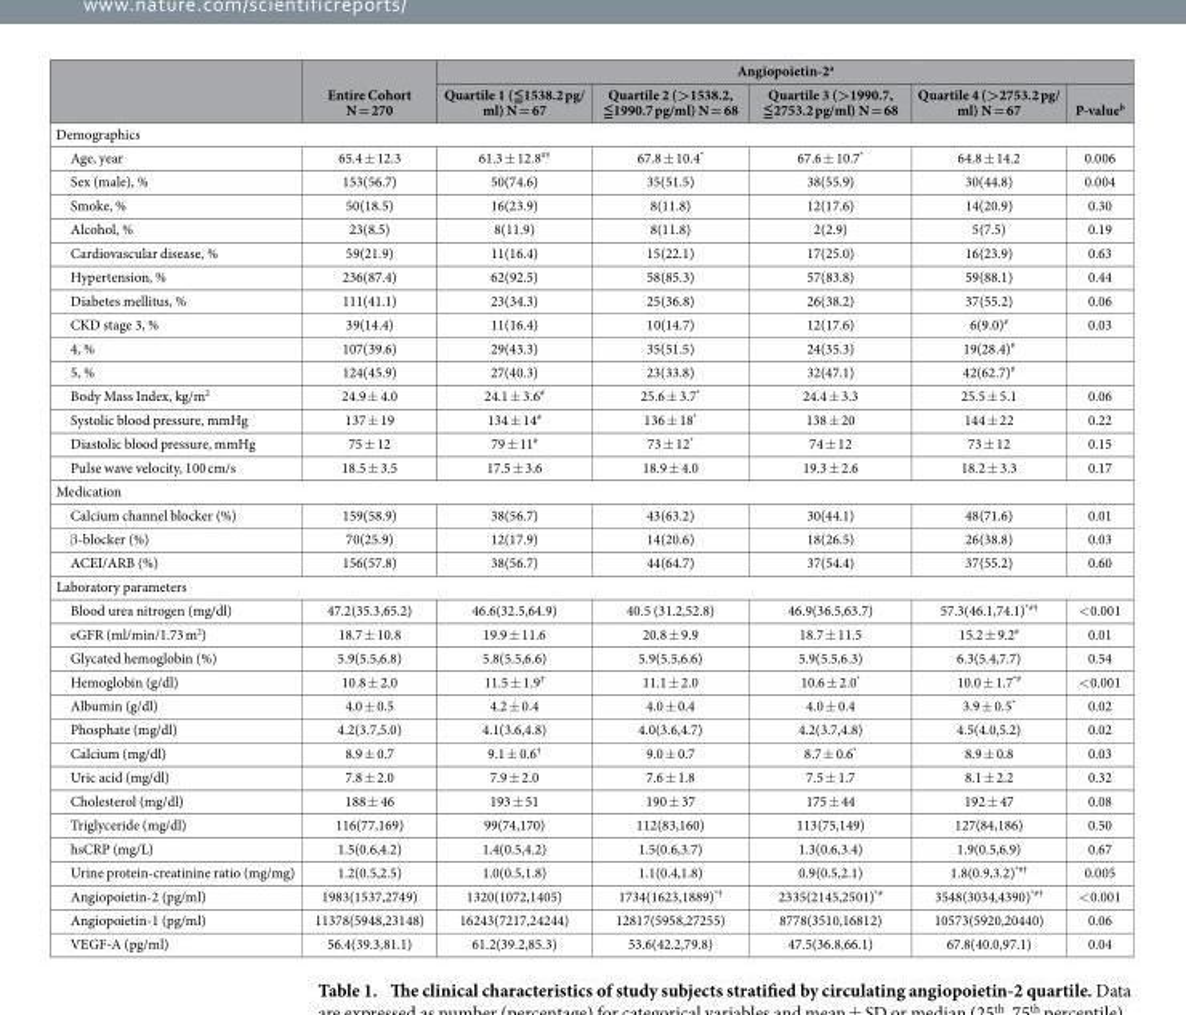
<table><thead><tr><td rowspan="2"></td><td rowspan="2">Entire Cohort N = 270</td><td colspan="5">Angiopoietin-2<sup>a</sup></td></tr><tr><td>Quartile 1 (≦1538.2 pg/ ml) N = 67</td><td>Quartile 2 (&gt;1538.2, ≦1990.7 pg/ml) N = 68</td><td>Quartile 3 (&gt;1990.7, ≦2753.2 pg/ml) N = 68</td><td>Quartile 4 (&gt;2753.2 pg/ ml) N = 67</td><td>P-value<sup>b</sup></td></tr></thead><tbody><tr><td colspan="7">Demographics</td></tr><tr><td>Age, year</td><td>65.4 ± 12.3</td><td>61.3 ± 12.8<sup>#†</sup></td><td>67.8 ± 10.4*</td><td>67.6 ± 10.7*</td><td>64.8 ± 14.2</td><td>0.006</td></tr><tr><td>Sex (male), %</td><td>153(56.7)</td><td>50(74.6)</td><td>35(51.5)</td><td>38(55.9)</td><td>30(44.8)</td><td>0.004</td></tr><tr><td>Smoke, %</td><td>50(18.5)</td><td>16(23.9)</td><td>8(11.8)</td><td>12(17.6)</td><td>14(20.9)</td><td>0.30</td></tr><tr><td>Alcohol, %</td><td>23(8.5)</td><td>8(11.9)</td><td>8(11.8)</td><td>2(2.9)</td><td>5(7.5)</td><td>0.19</td></tr><tr><td>Cardiovascular disease, %</td><td>59(21.9)</td><td>11(16.4)</td><td>15(22.1)</td><td>17(25.0)</td><td>16(23.9)</td><td>0.63</td></tr><tr><td>Hypertension, %</td><td>236(87.4)</td><td>62(92.5)</td><td>58(85.3)</td><td>57(83.8)</td><td>59(88.1)</td><td>0.44</td></tr><tr><td>Diabetes mellitus, %</td><td>111(41.1)</td><td>23(34.3)</td><td>25(36.8)</td><td>26(38.2)</td><td>37(55.2)</td><td>0.06</td></tr><tr><td>CKD stage 3, %</td><td>39(14.4)</td><td>11(16.4)</td><td>10(14.7)</td><td>12(17.6)</td><td>6(9.0)<sup>#</sup></td><td>0.03</td></tr><tr><td>4, %</td><td>107(39.6)</td><td>29(43.3)</td><td>35(51.5)</td><td>24(35.3)</td><td>19(28.4)<sup>#</sup></td><td></td></tr><tr><td>5, %</td><td>124(45.9)</td><td>27(40.3)</td><td>23(33.8)</td><td>32(47.1)</td><td>42(62.7)<sup>#</sup></td><td></td></tr><tr><td>Body Mass Index, kg/m<sup>2</sup></td><td>24.9 ± 4.0</td><td>24.1 ± 3.6<sup>#</sup></td><td>25.6 ± 3.7*</td><td>24.4 ± 3.3</td><td>25.5 ± 5.1</td><td>0.06</td></tr><tr><td>Systolic blood pressure, mmHg</td><td>137 ± 19</td><td>134 ± 14<sup>#</sup></td><td>136 ± 18*</td><td>138 ± 20</td><td>144 ± 22</td><td>0.22</td></tr><tr><td>Diastolic blood pressure, mmHg</td><td>75 ± 12</td><td>79 ± 11<sup>#</sup></td><td>73 ± 12*</td><td>74 ± 12</td><td>73 ± 12</td><td>0.15</td></tr><tr><td>Pulse wave velocity, 100 cm/s</td><td>18.5 ± 3.5</td><td>17.5 ± 3.6</td><td>18.9 ± 4.0</td><td>19.3 ± 2.6</td><td>18.2 ± 3.3</td><td>0.17</td></tr><tr><td colspan="7">Medication</td></tr><tr><td>Calcium channel blocker (%)</td><td>159(58.9)</td><td>38(56.7)</td><td>43(63.2)</td><td>30(44.1)</td><td>48(71.6)</td><td>0.01</td></tr><tr><td>β -blocker (%)</td><td>70(25.9)</td><td>12(17.9)</td><td>14(20.6)</td><td>18(26.5)</td><td>26(38.8)</td><td>0.03</td></tr><tr><td>ACEI/ARB (%)</td><td>156(57.8)</td><td>38(56.7)</td><td>44(64.7)</td><td>37(54.4)</td><td>37(55.2)</td><td>0.60</td></tr><tr><td colspan="7">Laboratory parameters</td></tr><tr><td>Blood urea nitrogen (mg/dl)</td><td>47.2(35.3,65.2)</td><td>46.6(32.5,64.9)</td><td>40.5 (31.2,52.8)</td><td>46.9(36.5,63.7)</td><td>57.3(46.1,74.1)<sup>*#†</sup></td><td>&lt; 0.001</td></tr><tr><td>eGFR (ml/min/1.73 m<sup>2</sup>)</td><td>18.7 ± 10.8</td><td>19.9 ± 11.6</td><td>20.8 ± 9.9</td><td>18.7 ± 11.5</td><td>15.2 ± 9.2<sup>#</sup></td><td>0.01</td></tr><tr><td>Glycated hemoglobin (%)</td><td>5.9(5.5,6.8)</td><td>5.8(5.5,6.6)</td><td>5.9(5.5,6.6)</td><td>5.9(5.5,6.3)</td><td>6.3(5.4,7.7)</td><td>0.54</td></tr><tr><td>Hemoglobin (g/dl)</td><td>10.8 ± 2.0</td><td>11.5 ± 1.9<sup>†</sup></td><td>11.1 ± 2.0</td><td>10.6 ± 2.0*</td><td>10.0 ± 1.7<sup>*#</sup></td><td>&lt; 0.001</td></tr><tr><td>Albumin (g/dl)</td><td>4.0 ± 0.5</td><td>4.2 ± 0.4</td><td>4.0 ± 0.4</td><td>4.0 ± 0.4</td><td>3.9 ± 0.5*</td><td>0.02</td></tr><tr><td>Phosphate (mg/dl)</td><td>4.2(3.7,5.0)</td><td>4.1(3.6,4.8)</td><td>4.0(3.6,4.7)</td><td>4.2(3.7,4.8)</td><td>4.5(4.0,5.2)</td><td>0.02</td></tr><tr><td>Calcium (mg/dl)</td><td>8.9 ± 0.7</td><td>9.1 ± 0.6<sup>†</sup></td><td>9.0 ± 0.7</td><td>8.7 ± 0.6*</td><td>8.9 ± 0.8</td><td>0.03</td></tr><tr><td>Uric acid (mg/dl)</td><td>7.8 ± 2.0</td><td>7.9 ± 2.0</td><td>7.6 ± 1.8</td><td>7.5 ± 1.7</td><td>8.1 ± 2.2</td><td>0.32</td></tr><tr><td>Cholesterol (mg/dl)</td><td>188 ± 46</td><td>193 ± 51</td><td>190 ± 37</td><td>175 ± 44</td><td>192 ± 47</td><td>0.08</td></tr><tr><td>Triglyceride (mg/dl)</td><td>116(77,169)</td><td>99(74,170)</td><td>112(83,160)</td><td>113(75,149)</td><td>127(84,186)</td><td>0.50</td></tr><tr><td>hsCRP (mg/L)</td><td>1.5(0.6,4.2)</td><td>1.4(0.5,4.2)</td><td>1.5(0.6,3.7)</td><td>1.3(0.6,3.4)</td><td>1.9(0.5,6.9)</td><td>0.67</td></tr><tr><td>Urine protein-creatinine ratio (mg/mg)</td><td>1.2(0.5,2.5)</td><td>1.0(0.5,1.8)</td><td>1.1(0.4,1.8)</td><td>0.9(0.5,2.1)</td><td>1.8(0.9,3.2)<sup>*#†</sup></td><td>0.005</td></tr><tr><td>Angiopoietin-2 (pg/ml)</td><td>1983(1537,2749)</td><td>1320(1072,1405)</td><td>1734(1623,1889)<sup>*†</sup></td><td>2335(2145,2501)<sup>*#</sup></td><td>3548(3034,4390)<sup>*#†</sup></td><td>&lt; 0.001</td></tr><tr><td>Angiopoietin-1 (pg/ml)</td><td>11378(5948,23148)</td><td>16243(7217,24244)</td><td>12817(5958,27255)</td><td>8778(3510,16812)</td><td>10573(5920,20440)</td><td>0.06</td></tr><tr><td>VEGF-A (pg/ml)</td><td>56.4(39.3,81.1)</td><td>61.2(39.2,85.3)</td><td>53.6(42.2,79.8)</td><td>47.5(36.8,66.1)</td><td>67.8(40.0,97.1)</td><td>0.04</td></tr></tbody></table>